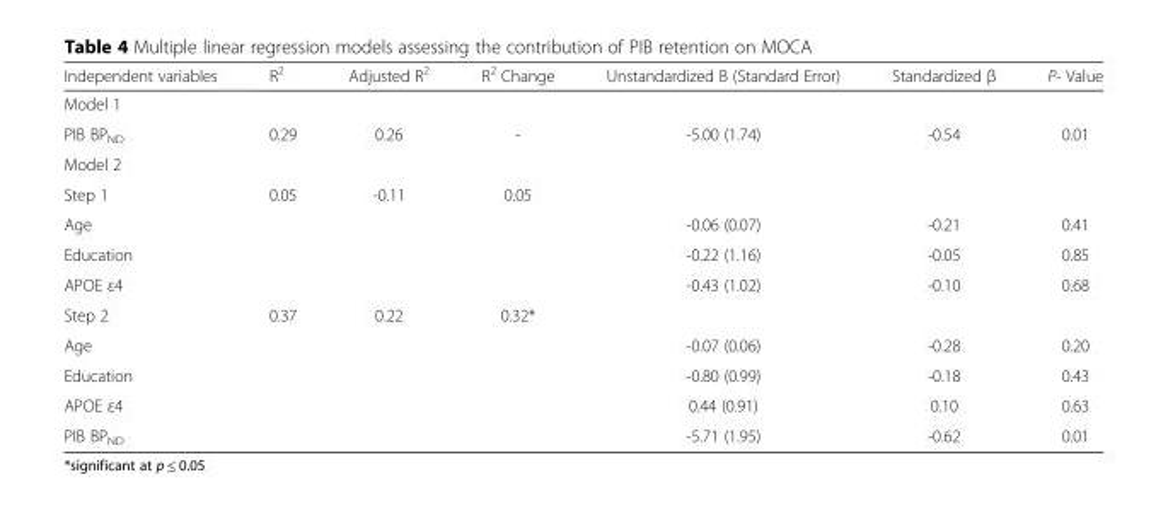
<table><thead><tr><td>Independent variables</td><td>R<sup>2</sup></td><td>Adjusted R<sup>2</sup></td><td>R<sup>2</sup> Change</td><td>Unstandardized B (Standard Error)</td><td>Standardized β</td><td>P- Value</td></tr></thead><tbody><tr><td colspan="7">Model 1</td></tr><tr><td>PIB BP<sub>ND</sub></td><td>0.29</td><td>0.26</td><td>-</td><td>-5.00 (1.74)</td><td>-0.54</td><td>0.01</td></tr><tr><td colspan="7">Model 2</td></tr><tr><td>Step 1</td><td>0.05</td><td>-0.11</td><td>0.05</td><td></td><td></td><td></td></tr><tr><td>Age</td><td></td><td></td><td></td><td>-0.06 (0.07)</td><td>-0.21</td><td>0.41</td></tr><tr><td>Education</td><td></td><td></td><td></td><td>-0.22 (1.16)</td><td>-0.05</td><td>0.85</td></tr><tr><td>APOE ε4</td><td></td><td></td><td></td><td>-0.43 (1.02)</td><td>-0.10</td><td>0.68</td></tr><tr><td>Step 2</td><td>0.37</td><td>0.22</td><td>0.32*</td><td></td><td></td><td></td></tr><tr><td>Age</td><td></td><td></td><td></td><td>-0.07 (0.06)</td><td>-0.28</td><td>0.20</td></tr><tr><td>Education</td><td></td><td></td><td></td><td>-0.80 (0.99)</td><td>-0.18</td><td>0.43</td></tr><tr><td>APOE ε4</td><td></td><td></td><td></td><td>0.44 (0.91)</td><td>0.10</td><td>0.63</td></tr><tr><td>PIB BP<sub>ND</sub></td><td></td><td></td><td></td><td>-5.71 (1.95)</td><td>-0.62</td><td>0.01</td></tr></tbody></table>